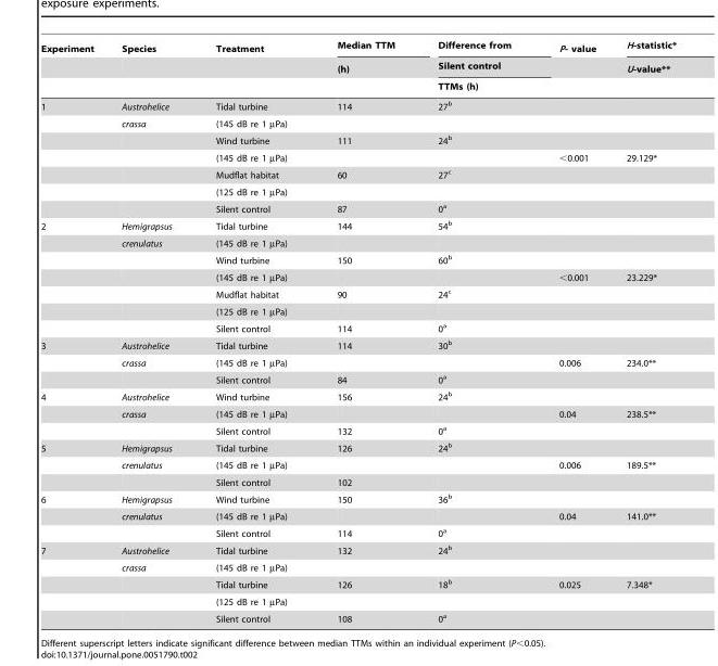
<table><thead><tr><td rowspan="3">Experiment</td><td rowspan="3">Species</td><td rowspan="3">Treatment</td><td rowspan="3">Median TTM (h)</td><td rowspan="3">Difference from Silent control TTMs (h)</td><td rowspan="3">P- value</td><td rowspan="3">H-statistic* U-value**</td></tr><tr></tr><tr></tr></thead><tbody><tr><td rowspan="7">1</td><td>Austrohelice</td><td>Tidal turbine</td><td>114</td><td>27<sup>b</sup></td><td></td><td></td></tr><tr><td>crassa</td><td>(145 dB re 1 µPa)</td><td></td><td></td><td></td><td></td></tr><tr><td></td><td>Wind turbine</td><td>111</td><td>24<sup>b</sup></td><td></td><td></td></tr><tr><td></td><td>(145 dB re 1 µPa)</td><td></td><td></td><td>&lt;0.001</td><td>29.129*</td></tr><tr><td></td><td>Mudflat habitat</td><td>60</td><td>27<sup>c</sup></td><td></td><td></td></tr><tr><td></td><td>(125 dB re 1 µPa)</td><td></td><td></td><td></td><td></td></tr><tr><td></td><td>Silent control</td><td>87</td><td>0<sup>a</sup></td><td></td><td></td></tr><tr><td rowspan="7">2</td><td>Hemigrapsus</td><td>Tidal turbine</td><td>144</td><td>54<sup>b</sup></td><td></td><td></td></tr><tr><td>crenulatus</td><td>(145 dB re 1 µPa)</td><td></td><td></td><td></td><td></td></tr><tr><td></td><td>Wind turbine</td><td>150</td><td>60<sup>b</sup></td><td></td><td></td></tr><tr><td></td><td>(145 dB re 1 µPa)</td><td></td><td></td><td>&lt;0.001</td><td>23.229*</td></tr><tr><td></td><td>Mudflat habitat</td><td>90</td><td>24<sup>c</sup></td><td></td><td></td></tr><tr><td></td><td>(125 dB re 1 µPa)</td><td></td><td></td><td></td><td></td></tr><tr><td></td><td>Silent control</td><td>114</td><td>0<sup>a</sup></td><td></td><td></td></tr><tr><td rowspan="3">3</td><td>Austrohelice</td><td>Tidal turbine</td><td>114</td><td>30<sup>b</sup></td><td></td><td></td></tr><tr><td>crassa</td><td>(145 dB re 1 µPa)</td><td></td><td></td><td>0.006</td><td>234.0**</td></tr><tr><td></td><td>Silent control</td><td>84</td><td>0<sup>a</sup></td><td></td><td></td></tr><tr><td rowspan="3">4</td><td>Austrohelice</td><td>Wind turbine</td><td>156</td><td>24<sup>b</sup></td><td></td><td></td></tr><tr><td>crassa</td><td>(145 dB re 1 µPa)</td><td></td><td></td><td>0.04</td><td>238.5**</td></tr><tr><td></td><td>Silent control</td><td>132</td><td>0<sup>a</sup></td><td></td><td></td></tr><tr><td rowspan="3">5</td><td>Hemigrapsus</td><td>Tidal turbine</td><td>126</td><td>24<sup>b</sup></td><td></td><td></td></tr><tr><td>crenulatus</td><td>(145 dB re 1 µPa)</td><td></td><td></td><td>0.006</td><td>189.5**</td></tr><tr><td></td><td>Silent control</td><td>102</td><td></td><td></td><td></td></tr><tr><td rowspan="3">6</td><td>Hemigrapsus</td><td>Wind turbine</td><td>150</td><td>36<sup>b</sup></td><td></td><td></td></tr><tr><td>crenulatus</td><td>(145 dB re 1 µPa)</td><td></td><td></td><td>0.04</td><td>141.0**</td></tr><tr><td></td><td>Silent control</td><td>114</td><td>0<sup>a</sup></td><td></td><td></td></tr><tr><td rowspan="5">7</td><td>Austrohelice</td><td>Tidal turbine</td><td>132</td><td>24<sup>b</sup></td><td></td><td></td></tr><tr><td>crassa</td><td>(145 dB re 1 µPa)</td><td></td><td></td><td></td><td></td></tr><tr><td></td><td>Tidal turbine</td><td>126</td><td>18<sup>b</sup></td><td>0.025</td><td>7.348*</td></tr><tr><td></td><td>(125 dB re 1 µPa)</td><td></td><td></td><td></td><td></td></tr><tr><td></td><td>Silent control</td><td>108</td><td>0<sup>a</sup></td><td></td><td></td></tr></tbody></table>